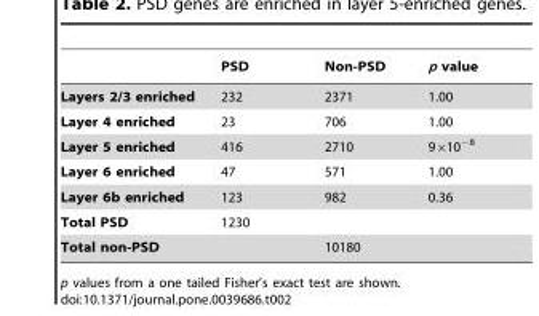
<table><thead><tr><td></td><td>PSD</td><td>Non-PSD</td><td>p value</td></tr></thead><tbody><tr><td>Layers 2/3 enriched</td><td>232</td><td>2371</td><td>1.00</td></tr><tr><td>Layer 4 enriched</td><td>23</td><td>706</td><td>1.00</td></tr><tr><td>Layer 5 enriched</td><td>416</td><td>2710</td><td>9×10<sup>−8</sup></td></tr><tr><td>Layer 6 enriched</td><td>47</td><td>571</td><td>1.00</td></tr><tr><td>Layer 6b enriched</td><td>123</td><td>982</td><td>0.36</td></tr><tr><td>Total PSD</td><td>1230</td><td></td><td></td></tr><tr><td>Total non-PSD</td><td></td><td>10180</td><td></td></tr></tbody></table>